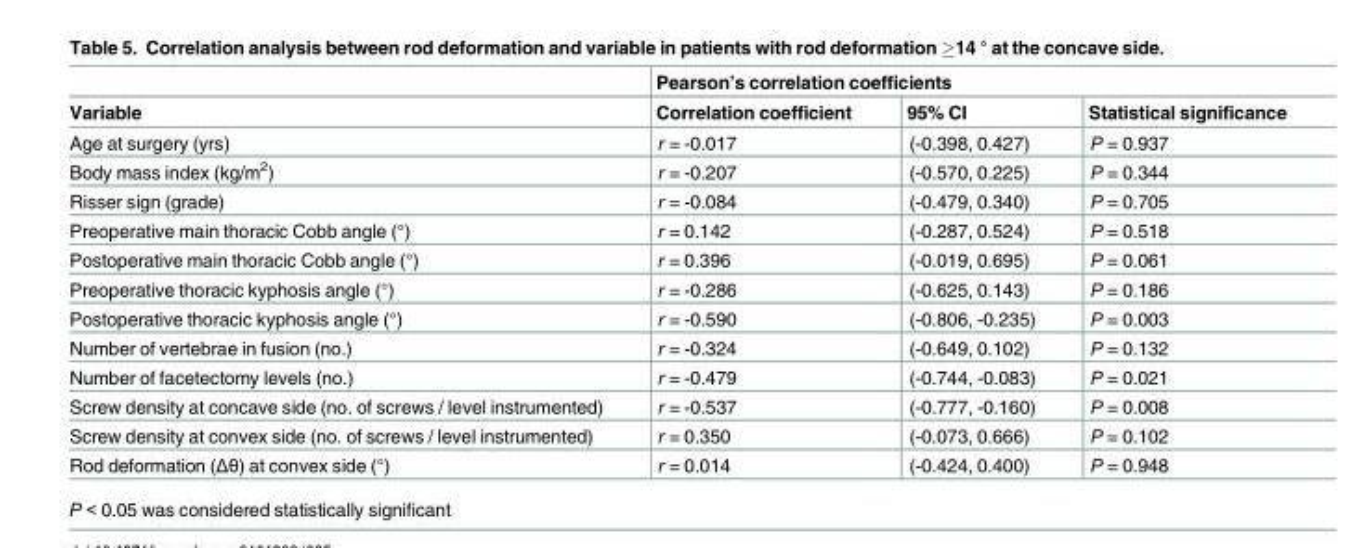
<table><thead><tr><td rowspan="2">Variable</td><td colspan="3">Pearson’s correlation coefficients</td></tr><tr><td>Correlation coefficient</td><td>95% CI</td><td>Statistical significance</td></tr></thead><tbody><tr><td>Age at surgery (yrs)</td><td>r = -0.017</td><td>(-0.398, 0.427)</td><td>P = 0.937</td></tr><tr><td>Body mass index (kg/m<sup>2</sup>)</td><td>r = -0.207</td><td>(-0.570, 0.225)</td><td>P = 0.344</td></tr><tr><td>Risser sign (grade)</td><td>r = -0.084</td><td>(-0.479, 0.340)</td><td>P = 0.705</td></tr><tr><td>Preoperative main thoracic Cobb angle (°)</td><td>r = 0.142</td><td>(-0.287, 0.524)</td><td>P = 0.518</td></tr><tr><td>Postoperative main thoracic Cobb angle (°)</td><td>r = 0.396</td><td>(-0.019, 0.695)</td><td>P = 0.061</td></tr><tr><td>Preoperative thoracic kyphosis angle (°)</td><td>r = -0.286</td><td>(-0.625, 0.143)</td><td>P = 0.186</td></tr><tr><td>Postoperative thoracic kyphosis angle (°)</td><td>r = -0.590</td><td>(-0.806, -0.235)</td><td>P = 0.003</td></tr><tr><td>Number of vertebrae in fusion (no.)</td><td>r = -0.324</td><td>(-0.649, 0.102)</td><td>P = 0.132</td></tr><tr><td>Number of facetectomy levels (no.)</td><td>r = -0.479</td><td>(-0.744, -0.083)</td><td>P = 0.021</td></tr><tr><td>Screw density at concave side (no. of screws / level instrumented)</td><td>r = -0.537</td><td>(-0.777, -0.160)</td><td>P = 0.008</td></tr><tr><td>Screw density at convex side (no. of screws / level instrumented)</td><td>r = 0.350</td><td>(-0.073, 0.666)</td><td>P = 0.102</td></tr><tr><td>Rod deformation (Δθ) at convex side (°)</td><td>r = 0.014</td><td>(-0.424, 0.400)</td><td>P = 0.948</td></tr></tbody></table>